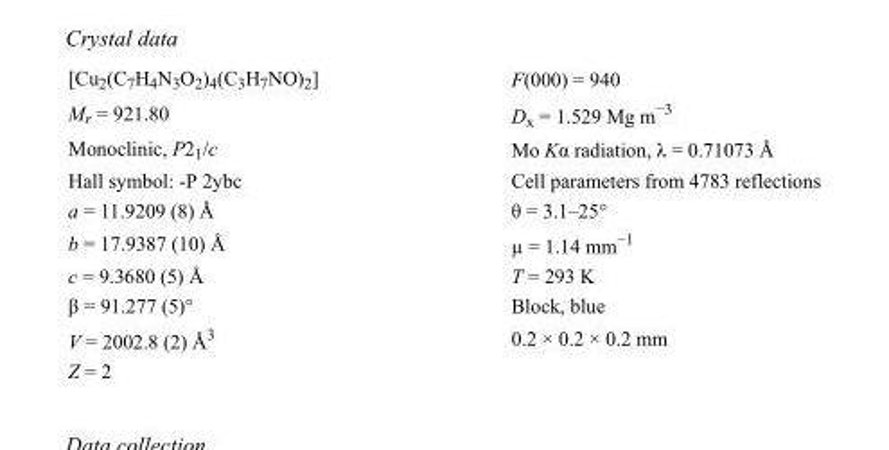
<table><tbody><tr><td>[Cu<sub>2</sub>(C<sub>7</sub>H<sub>4</sub>N<sub>3</sub>O<sub>2</sub>)<sub>4</sub>(C<sub>3</sub>H<sub>7</sub>NO)<sub>2</sub>]</td><td>F(000) = 940</td></tr><tr><td>M<sub>r</sub> = 921.80</td><td>D<sub>x</sub> = 1.529 Mg m<sup>−3</sup></td></tr><tr><td>Monoclinic, P2<sub>1</sub>/c</td><td>Mo Kα radiation, λ = 0.71073 Å</td></tr><tr><td>Hall symbol: -P 2ybc</td><td>Cell parameters from 4783 reflections</td></tr><tr><td>a = 11.9209 (8) Å</td><td>θ = 3.1–25°</td></tr><tr><td>b = 17.9387 (10) Å</td><td>µ = 1.14 mm<sup>−1</sup></td></tr><tr><td>c = 9.3680 (5) Å</td><td>T = 293 K</td></tr><tr><td>β = 91.277 (5)°</td><td>Block, blue</td></tr><tr><td>V = 2002.8 (2) Å<sup>3</sup></td><td>0.2 × 0.2 × 0.2 mm</td></tr><tr><td>Z = 2</td><td></td></tr></tbody></table>